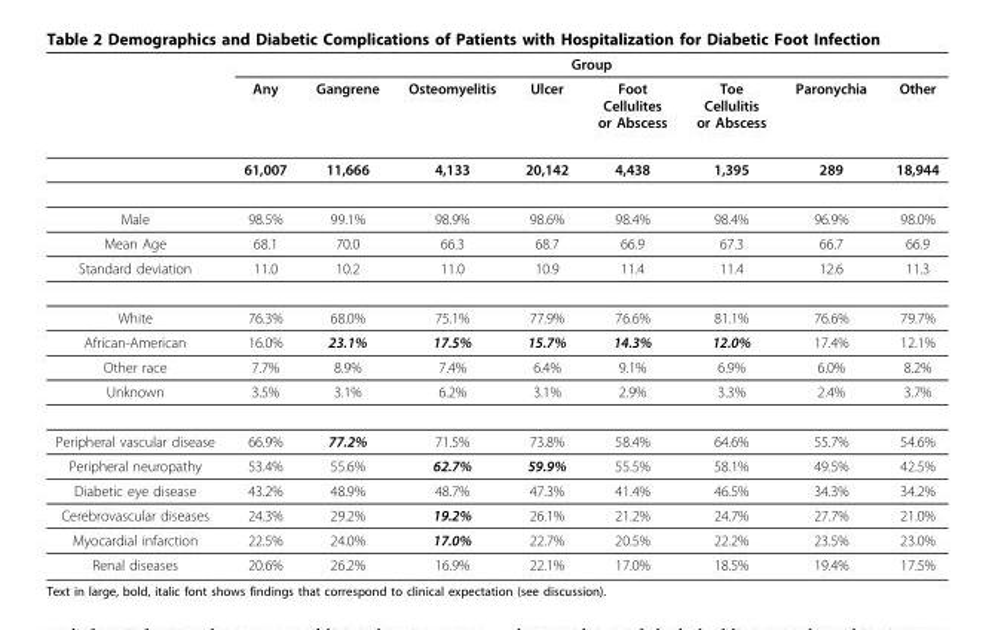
<table><thead><tr><td rowspan="2"></td><td colspan="8">Group</td></tr><tr><td>Any</td><td>Gangrene</td><td>Osteomyelitis</td><td>Ulcer</td><td>Foot Cellulites or Abscess</td><td>Toe Cellulitis or Abscess</td><td>Paronychia</td><td>Other</td></tr></thead><tbody><tr><td></td><td>61,007</td><td>11,666</td><td>4,133</td><td>20,142</td><td>4,438</td><td>1,395</td><td>289</td><td>18,944</td></tr><tr><td>Male</td><td>98.5%</td><td>99.1%</td><td>98.9%</td><td>98.6%</td><td>98.4%</td><td>98.4%</td><td>96.9%</td><td>98.0%</td></tr><tr><td>Mean Age</td><td>68.1</td><td>70.0</td><td>66.3</td><td>68.7</td><td>66.9</td><td>67.3</td><td>66.7</td><td>66.9</td></tr><tr><td>Standard deviation</td><td>11.0</td><td>10.2</td><td>11.0</td><td>10.9</td><td>11.4</td><td>11.4</td><td>12.6</td><td>11.3</td></tr><tr><td>White</td><td>76.3%</td><td>68.0%</td><td>75.1%</td><td>77.9%</td><td>76.6%</td><td>81.1%</td><td>76.6%</td><td>79.7%</td></tr><tr><td>African-American</td><td>16.0%</td><td>23.1%</td><td>17.5%</td><td>15.7%</td><td>14.3%</td><td>12.0%</td><td>17.4%</td><td>12.1%</td></tr><tr><td>Other race</td><td>7.7%</td><td>8.9%</td><td>7.4%</td><td>6.4%</td><td>9.1%</td><td>6.9%</td><td>6.0%</td><td>8.2%</td></tr><tr><td>Unknown</td><td>3.5%</td><td>3.1%</td><td>6.2%</td><td>3.1%</td><td>2.9%</td><td>3.3%</td><td>2.4%</td><td>3.7%</td></tr><tr><td>Peripheral vascular disease</td><td>66.9%</td><td>77.2%</td><td>71.5%</td><td>73.8%</td><td>58.4%</td><td>64.6%</td><td>55.7%</td><td>54.6%</td></tr><tr><td>Peripheral neuropathy</td><td>53.4%</td><td>55.6%</td><td>62.7%</td><td>59.9%</td><td>55.5%</td><td>58.1%</td><td>49.5%</td><td>42.5%</td></tr><tr><td>Diabetic eye disease</td><td>43.2%</td><td>48.9%</td><td>48.7%</td><td>47.3%</td><td>41.4%</td><td>46.5%</td><td>34.3%</td><td>34.2%</td></tr><tr><td>Cerebrovascular diseases</td><td>24.3%</td><td>29.2%</td><td>19.2%</td><td>26.1%</td><td>21.2%</td><td>24.7%</td><td>27.7%</td><td>21.0%</td></tr><tr><td>Myocardial infarction</td><td>22.5%</td><td>24.0%</td><td>17.0%</td><td>22.7%</td><td>20.5%</td><td>22.2%</td><td>23.5%</td><td>23.0%</td></tr><tr><td>Renal diseases</td><td>20.6%</td><td>26.2%</td><td>16.9%</td><td>22.1%</td><td>17.0%</td><td>18.5%</td><td>19.4%</td><td>17.5%</td></tr></tbody></table>